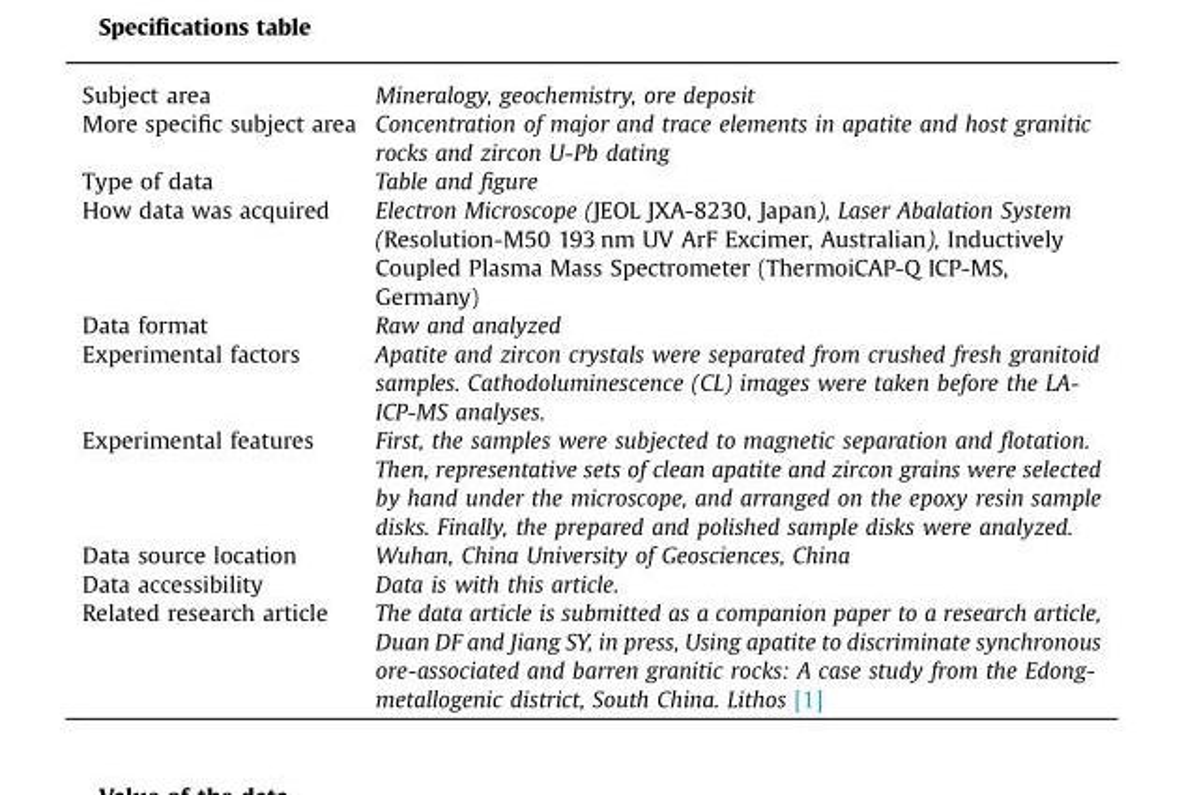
<table><tbody><tr><td>Subject area</td><td>Mineralogy, geochemistry, ore deposit</td></tr><tr><td>More specific subject area</td><td>Concentration of major and trace elements in apatite and host granitic rocks and zircon U-Pb dating</td></tr><tr><td>Type of data</td><td>Table and figure</td></tr><tr><td>How data was acquired</td><td>Electron Microscope (JEOL JXA-8230, Japan), Laser Abalation System (Resolution-M50 193 nm UV ArF Excimer, Australian), Inductively Coupled Plasma Mass Spectrometer (ThermoiCAP-Q ICP-MS, Germany)</td></tr><tr><td>Data format</td><td>Raw and analyzed</td></tr><tr><td>Experimental factors</td><td>Apatite and zircon crystals were separated from crushed fresh granitoid samples. Cathodoluminescence (CL) images were taken before the LA- ICP-MS analyses.</td></tr><tr><td>Experimental features</td><td>First, the samples were subjected to magnetic separation and flotation. Then, representative sets of clean apatite and zircon grains were selected by hand under the microscope, and arranged on the epoxy resin sample disks. Finally, the prepared and polished sample disks were analyzed.</td></tr><tr><td>Data source location</td><td>Wuhan, China University of Geosciences, China</td></tr><tr><td>Data accessibility</td><td>Data is with this article.</td></tr><tr><td>Related research article</td><td>The data article is submitted as a companion paper to a research article, Duan DF and Jiang SY, in press, Using apatite to discriminate synchronous ore-associated and barren granitic rocks: A case study from the Edong- metallogenic district, South China. Lithos [1]</td></tr></tbody></table>